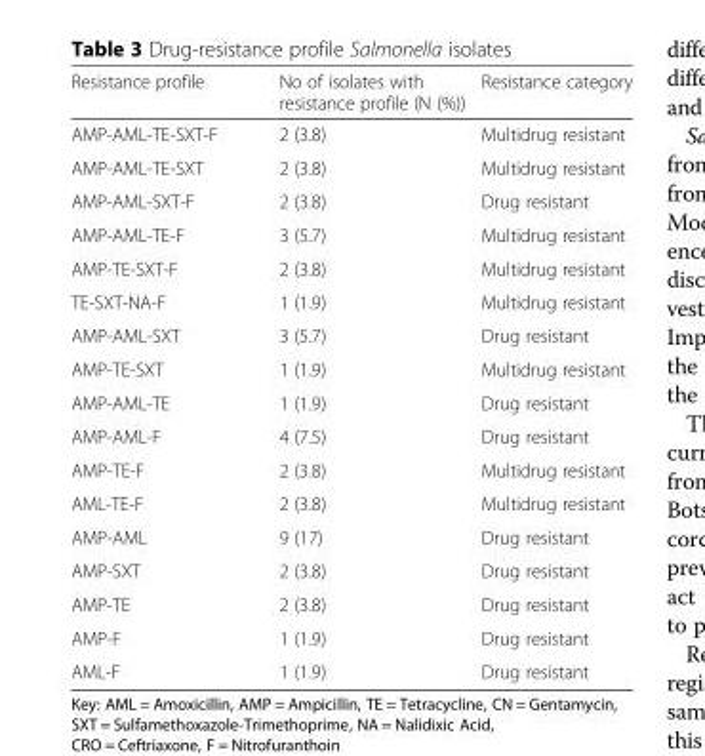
<table><thead><tr><td>Resistance profile</td><td>No of isolates with resistance profile (N (%))</td><td>Resistance category</td></tr></thead><tbody><tr><td>AMP-AML-TE-SXT-F</td><td>2 (3.8)</td><td>Multidrug resistant</td></tr><tr><td>AMP-AML-TE-SXT</td><td>2 (3.8)</td><td>Multidrug resistant</td></tr><tr><td>AMP-AML-SXT-F</td><td>2 (3.8)</td><td>Drug resistant</td></tr><tr><td>AMP-AML-TE-F</td><td>3 (5.7)</td><td>Multidrug resistant</td></tr><tr><td>AMP-TE-SXT-F</td><td>2 (3.8)</td><td>Multidrug resistant</td></tr><tr><td>TE-SXT-NA-F</td><td>1 (1.9)</td><td>Multidrug resistant</td></tr><tr><td>AMP-AML-SXT</td><td>3 (5.7)</td><td>Drug resistant</td></tr><tr><td>AMP-TE-SXT</td><td>1 (1.9)</td><td>Multidrug resistant</td></tr><tr><td>AMP-AML-TE</td><td>1 (1.9)</td><td>Drug resistant</td></tr><tr><td>AMP-AML-F</td><td>4 (7.5)</td><td>Drug resistant</td></tr><tr><td>AMP-TE-F</td><td>2 (3.8)</td><td>Multidrug resistant</td></tr><tr><td>AML-TE-F</td><td>2 (3.8)</td><td>Multidrug resistant</td></tr><tr><td>AMP-AML</td><td>9 (17)</td><td>Drug resistant</td></tr><tr><td>AMP-SXT</td><td>2 (3.8)</td><td>Drug resistant</td></tr><tr><td>AMP-TE</td><td>2 (3.8)</td><td>Drug resistant</td></tr><tr><td>AMP-F</td><td>1 (1.9)</td><td>Drug resistant</td></tr><tr><td>AML-F</td><td>1 (1.9)</td><td>Drug resistant</td></tr></tbody></table>